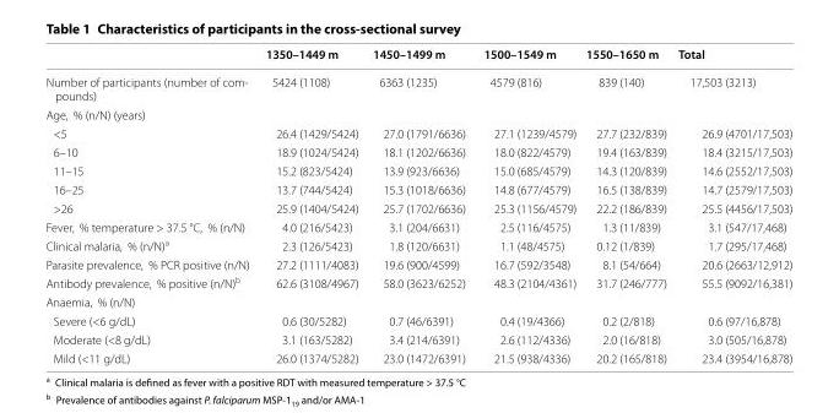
<table><thead><tr><td></td><td>1350–1449 m</td><td>1450–1499 m</td><td>1500–1549 m</td><td>1550–1650 m</td><td>Total</td></tr></thead><tbody><tr><td>Number of participants (number of com- pounds)</td><td>5424 (1108)</td><td>6363 (1235)</td><td>4579 (816)</td><td>839 (140)</td><td>17,503 (3213)</td></tr><tr><td colspan="6">Age, % (n/N) (years)</td></tr><tr><td>&lt;5</td><td>26.4 (1429/5424)</td><td>27.0 (1791/6636)</td><td>27.1 (1239/4579)</td><td>27.7 (232/839)</td><td>26.9 (4701/17,503)</td></tr><tr><td>6–10</td><td>18.9 (1024/5424)</td><td>18.1 (1202/6636)</td><td>18.0 (822/4579)</td><td>19.4 (163/839)</td><td>18.4 (3215/17,503)</td></tr><tr><td>11–15</td><td>15.2 (823/5424)</td><td>13.9 (923/6636)</td><td>15.0 (685/4579)</td><td>14.3 (120/839)</td><td>14.6 (2552/17,503)</td></tr><tr><td>16–25</td><td>13.7 (744/5424)</td><td>15.3 (1018/6636)</td><td>14.8 (677/4579)</td><td>16.5 (138/839)</td><td>14.7 (2579/17,503)</td></tr><tr><td>&gt;26</td><td>25.9 (1404/5424)</td><td>25.7 (1702/6636)</td><td>25.3 (1156/4579)</td><td>22.2 (186/839)</td><td>25.5 (4456/17,503)</td></tr><tr><td>Fever, % temperature &gt; 37.5 °C, % (n/N)</td><td>4.0 (216/5423)</td><td>3.1 (204/6631)</td><td>2.5 (116/4575)</td><td>1.3 (11/839)</td><td>3.1 (547/17,468)</td></tr><tr><td>Clinical malaria, % (n/N)<sup>a</sup></td><td>2.3 (126/5423)</td><td>1.8 (120/6631)</td><td>1.1 (48/4575)</td><td>0.12 (1/839)</td><td>1.7 (295/17,468)</td></tr><tr><td>Parasite prevalence, % PCR positive (n/N)</td><td>27.2 (1111/4083)</td><td>19.6 (900/4599)</td><td>16.7 (592/3548)</td><td>8.1 (54/664)</td><td>20.6 (2663/12,912)</td></tr><tr><td>Antibody prevalence, % positive (n/N)<sup>b</sup></td><td>62.6 (3108/4967)</td><td>58.0 (3623/6252)</td><td>48.3 (2104/4361)</td><td>31.7 (246/777)</td><td>55.5 (9092/16,381)</td></tr><tr><td colspan="6">Anaemia, % (n/N)</td></tr><tr><td>Severe (&lt;6 g/dL)</td><td>0.6 (30/5282)</td><td>0.7 (46/6391)</td><td>0.4 (19/4366)</td><td>0.2 (2/818)</td><td>0.6 (97/16,878)</td></tr><tr><td>Moderate (&lt;8 g/dL)</td><td>3.1 (163/5282)</td><td>3.4 (214/6391)</td><td>2.6 (112/4336)</td><td>2.0 (16/818)</td><td>3.0 (505/16,878)</td></tr><tr><td>Mild (&lt;11 g/dL)</td><td>26.0 (1374/5282)</td><td>23.0 (1472/6391)</td><td>21.5 (938/4336)</td><td>20.2 (165/818)</td><td>23.4 (3954/16,878)</td></tr></tbody></table>